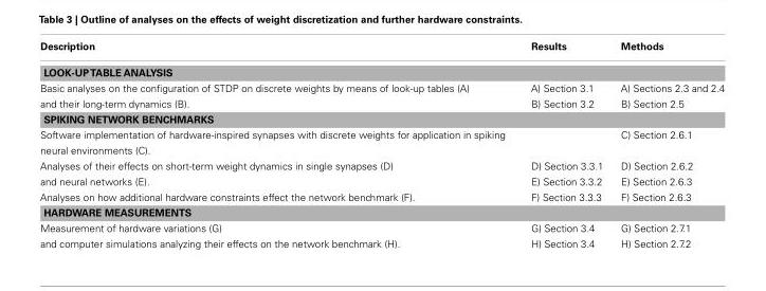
<table><thead><tr><td>Description</td><td>Results</td><td>Methods</td></tr></thead><tbody><tr><td colspan="3">LOOK-UPTABLE ANALYSIS</td></tr><tr><td>Basic analyses on the configuration of STDP on discrete weights by means of look-up tables (A)</td><td>A) Section 3.1</td><td>A) Sections 2.3 and 2.4</td></tr><tr><td>and their long-term dynamics (B).</td><td>B) Section 3.2</td><td>B) Section 2.5</td></tr><tr><td colspan="3">SPIKING NETWORK BENCHMARKS</td></tr><tr><td>Software implementation of hardware-inspired synapses with discrete weights for application in spiking neural environments (C).</td><td></td><td>C) Section 2.6.1</td></tr><tr><td>Analyses of their effects on short-term weight dynamics in single synapses (D)</td><td>D) Section 3.3.1</td><td>D) Section 2.6.2</td></tr><tr><td>and neural networks (E).</td><td>E) Section 3.3.2</td><td>E) Section 2.6.3</td></tr><tr><td>Analyses on how additional hardware constraints effect the network benchmark (F).</td><td>F) Section 3.3.3</td><td>F) Section 2.6.3</td></tr><tr><td colspan="3">HARDWARE MEASUREMENTS</td></tr><tr><td>Measurement of hardware variations (G)</td><td>G) Section 3.4</td><td>G) Section 2.7.1</td></tr><tr><td>and computer simulations analyzing their effects on the network benchmark (H).</td><td>H) Section 3.4</td><td>H) Section 2.7.2</td></tr></tbody></table>